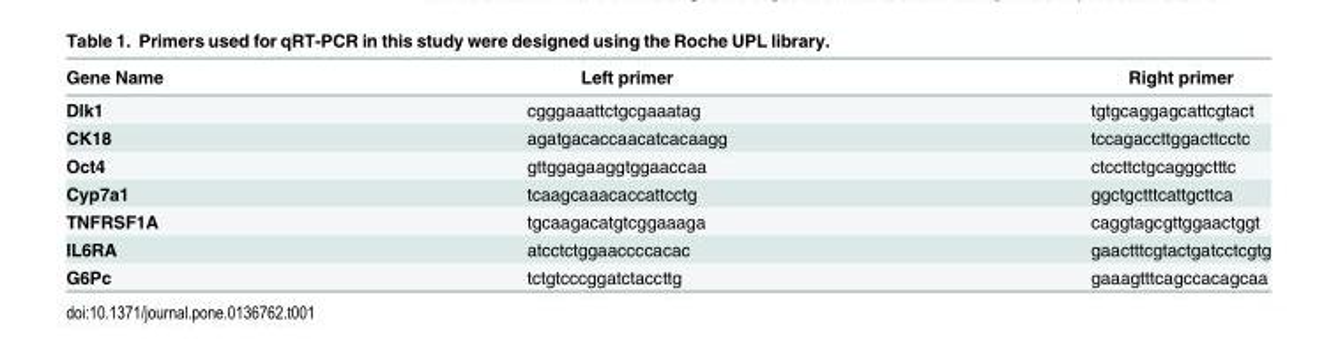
<table><thead><tr><td>Gene Name</td><td>Left primer</td><td>Right primer</td></tr></thead><tbody><tr><td>Dlk1</td><td>cgggaaattctgcgaaatag</td><td>tgtgcaggagcattcgtact</td></tr><tr><td>CK18</td><td>agatgacaccaacatcacaagg</td><td>tccagaccttggacttcctc</td></tr><tr><td>Oct4</td><td>gttggagaaggtggaaccaa</td><td>ctccttctgcagggctttc</td></tr><tr><td>Cyp7a1</td><td>tcaagcaaacaccattcctg</td><td>ggctgctttcattgcttca</td></tr><tr><td>TNFRSF1A</td><td>tgcaagacatgtcggaaaga</td><td>caggtagcgttggaactggt</td></tr><tr><td>IL6RA</td><td>atcctctggaaccccacac</td><td>gaactttcgtactgatcctcgtg</td></tr><tr><td>G6Pc</td><td>tctgtcccggatctaccttg</td><td>gaaagtttcagccacagcaa</td></tr></tbody></table>